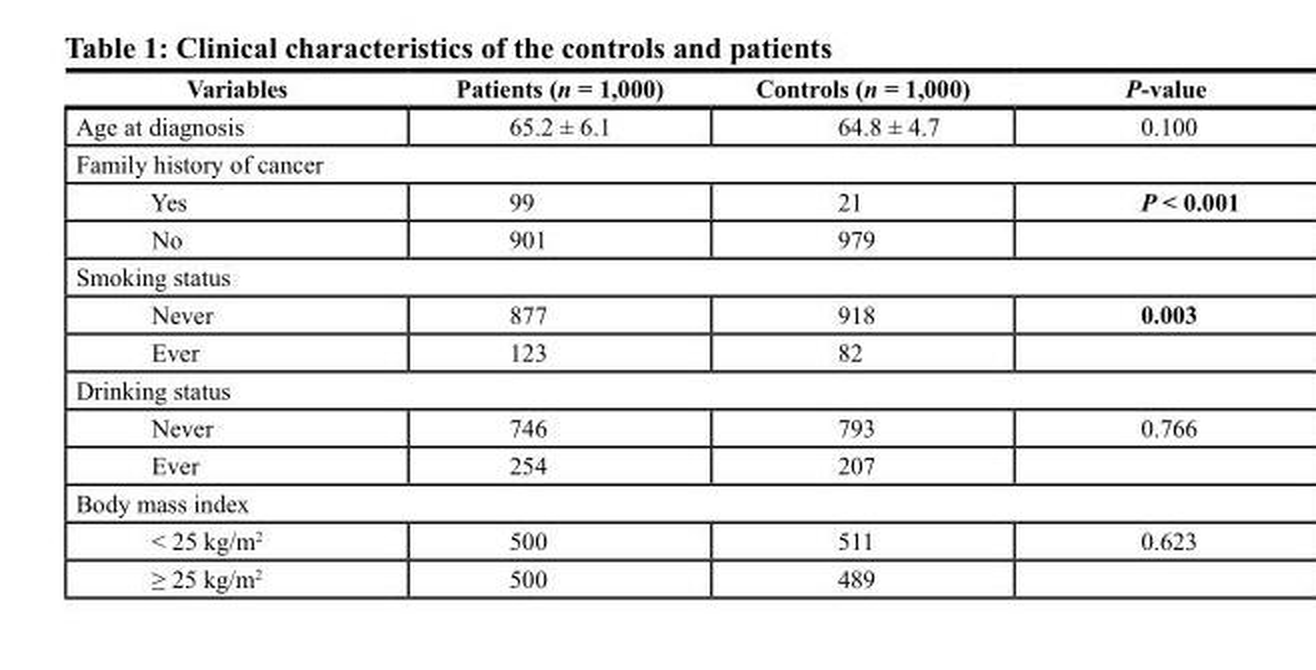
<table><thead><tr><td>Variables</td><td>Patients (n = 1,000)</td><td>Controls (n = 1,000)</td><td>P-value</td></tr></thead><tbody><tr><td>Age at diagnosis</td><td>65.2 ± 6.1</td><td>64.8 ± 4.7</td><td>0.100</td></tr><tr><td colspan="4">Family history of cancer</td></tr><tr><td>Yes</td><td>99</td><td>21</td><td>P &lt; 0.001</td></tr><tr><td>No</td><td>901</td><td>979</td><td></td></tr><tr><td colspan="4">Smoking status</td></tr><tr><td>Never</td><td>877</td><td>918</td><td>0.003</td></tr><tr><td>Ever</td><td>123</td><td>82</td><td></td></tr><tr><td colspan="4">Drinking status</td></tr><tr><td>Never</td><td>746</td><td>793</td><td>0.766</td></tr><tr><td>Ever</td><td>254</td><td>207</td><td></td></tr><tr><td colspan="4">Body mass index</td></tr><tr><td>&lt; 25 kg/m<sup>2</sup></td><td>500</td><td>511</td><td>0.623</td></tr><tr><td>≥ 25 kg/m<sup>2</sup></td><td>500</td><td>489</td><td></td></tr></tbody></table>